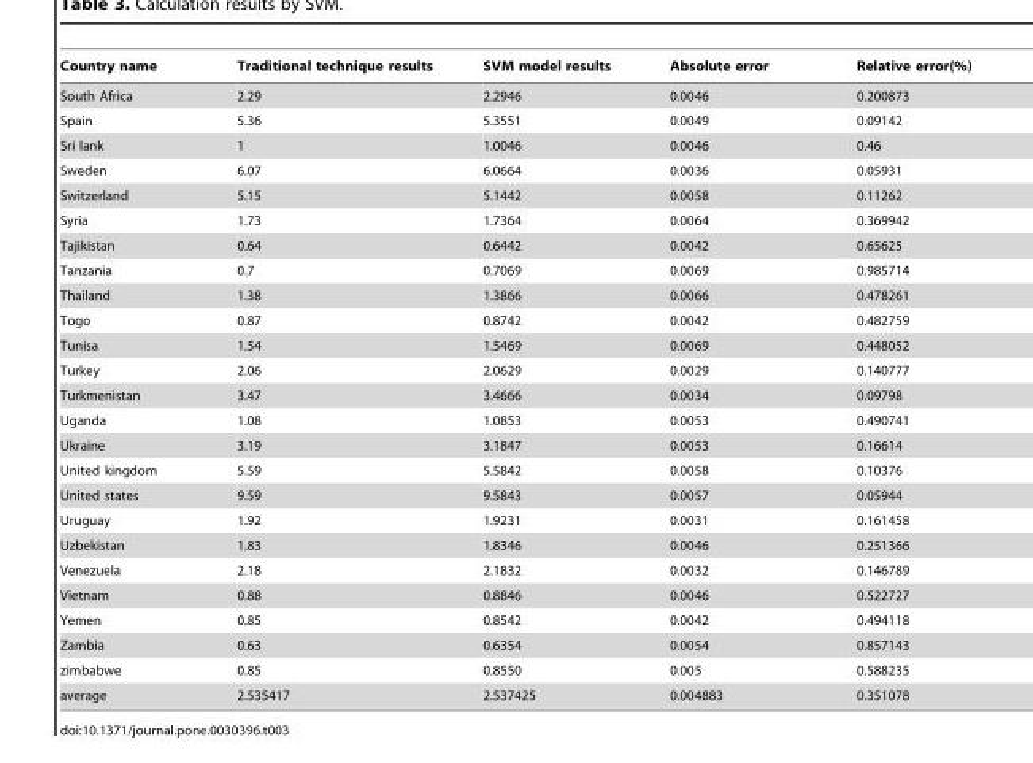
<table><thead><tr><td>Country name</td><td>Traditional technique results</td><td>SVM model results</td><td>Absolute error</td><td>Relative error(%)</td></tr></thead><tbody><tr><td>South Africa</td><td>2.29</td><td>2.2946</td><td>0.0046</td><td>0.200873</td></tr><tr><td>Spain</td><td>5.36</td><td>5.3551</td><td>0.0049</td><td>0.09142</td></tr><tr><td>Sri lank</td><td>1</td><td>1.0046</td><td>0.0046</td><td>0.46</td></tr><tr><td>Sweden</td><td>6.07</td><td>6.0664</td><td>0.0036</td><td>0.05931</td></tr><tr><td>Switzerland</td><td>5.15</td><td>5.1442</td><td>0.0058</td><td>0.11262</td></tr><tr><td>Syria</td><td>1.73</td><td>1.7364</td><td>0.0064</td><td>0.369942</td></tr><tr><td>Tajikistan</td><td>0.64</td><td>0.6442</td><td>0.0042</td><td>0.65625</td></tr><tr><td>Tanzania</td><td>0.7</td><td>0.7069</td><td>0.0069</td><td>0.985714</td></tr><tr><td>Thailand</td><td>1.38</td><td>1.3866</td><td>0.0066</td><td>0.478261</td></tr><tr><td>Togo</td><td>0.87</td><td>0.8742</td><td>0.0042</td><td>0.482759</td></tr><tr><td>Tunisa</td><td>1.54</td><td>1.5469</td><td>0.0069</td><td>0.448052</td></tr><tr><td>Turkey</td><td>2.06</td><td>2.0629</td><td>0.0029</td><td>0.140777</td></tr><tr><td>Turkmenistan</td><td>3.47</td><td>3.4666</td><td>0.0034</td><td>0.09798</td></tr><tr><td>Uganda</td><td>1.08</td><td>1.0853</td><td>0.0053</td><td>0.490741</td></tr><tr><td>Ukraine</td><td>3.19</td><td>3.1847</td><td>0.0053</td><td>0.16614</td></tr><tr><td>United kingdom</td><td>5.59</td><td>5.5842</td><td>0.0058</td><td>0.10376</td></tr><tr><td>United states</td><td>9.59</td><td>9.5843</td><td>0.0057</td><td>0.05944</td></tr><tr><td>Uruguay</td><td>1.92</td><td>1.9231</td><td>0.0031</td><td>0.161458</td></tr><tr><td>Uzbekistan</td><td>1.83</td><td>1.8346</td><td>0.0046</td><td>0.251366</td></tr><tr><td>Venezuela</td><td>2.18</td><td>2.1832</td><td>0.0032</td><td>0.146789</td></tr><tr><td>Vietnam</td><td>0.88</td><td>0.8846</td><td>0.0046</td><td>0.522727</td></tr><tr><td>Yemen</td><td>0.85</td><td>0.8542</td><td>0.0042</td><td>0.494118</td></tr><tr><td>Zambia</td><td>0.63</td><td>0.6354</td><td>0.0054</td><td>0.857143</td></tr><tr><td>zimbabwe</td><td>0.85</td><td>0.8550</td><td>0.005</td><td>0.588235</td></tr><tr><td>average</td><td>2.535417</td><td>2.537425</td><td>0.004883</td><td>0.351078</td></tr></tbody></table>